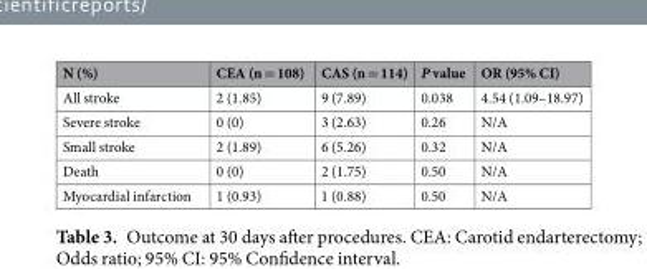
<table><thead><tr><td>N (%)</td><td>CEA (n = 108)</td><td>CAS (n = 114)</td><td>P value</td><td>OR (95% CI)</td></tr></thead><tbody><tr><td>All stroke</td><td>2 (1.85)</td><td>9 (7.89)</td><td>0.038</td><td>4.54 (1.09–18.97)</td></tr><tr><td>Severe stroke</td><td>0 (0)</td><td>3 (2.63)</td><td>0.26</td><td>N/A</td></tr><tr><td>Small stroke</td><td>2 (1.89)</td><td>6 (5.26)</td><td>0.32</td><td>N/A</td></tr><tr><td>Death</td><td>0 (0)</td><td>2 (1.75)</td><td>0.50</td><td>N/A</td></tr><tr><td>Myocardial infarction</td><td>1 (0.93)</td><td>1 (0.88)</td><td>0.50</td><td>N/A</td></tr></tbody></table>